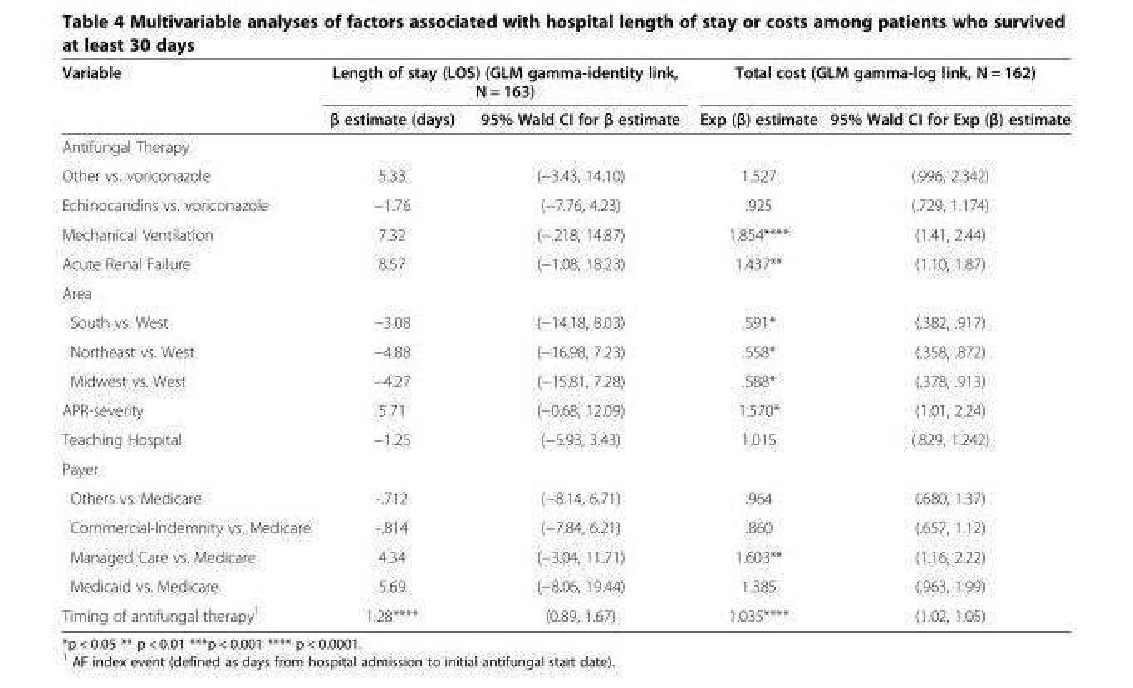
<table><thead><tr><td rowspan="2">Variable</td><td colspan="2">Length of stay (LOS) (GLM gamma-identity link, N = 163)</td><td colspan="2">Total cost (GLM gamma-log link, N = 162)</td></tr><tr><td>β estimate (days)</td><td>95% Wald CI for β estimate</td><td>Exp (β) estimate</td><td>95% Wald CI for Exp (β) estimate</td></tr></thead><tbody><tr><td colspan="5">Antifungal Therapy</td></tr><tr><td>Other vs. voriconazole</td><td>5.33</td><td>(−3.43, 14.10)</td><td>1.527</td><td>(.996, 2.342)</td></tr><tr><td>Echinocandins vs. voriconazole</td><td>−1.76</td><td>(−7.76, 4.23)</td><td>.925</td><td>(.729, 1.174)</td></tr><tr><td>Mechanical Ventilation</td><td>7.32</td><td>(−.218, 14.87)</td><td>1.854****</td><td>(1.41, 2.44)</td></tr><tr><td>Acute Renal Failure</td><td>8.57</td><td>(−1.08, 18.23)</td><td>1.437**</td><td>(1.10, 1.87)</td></tr><tr><td colspan="5">Area</td></tr><tr><td>South vs. West</td><td>−3.08</td><td>(−14.18, 8.03)</td><td>.591*</td><td>(.382, .917)</td></tr><tr><td>Northeast vs. West</td><td>−4.88</td><td>(−16.98, 7.23)</td><td>.558*</td><td>(.358, .872)</td></tr><tr><td>Midwest vs. West</td><td>−4.27</td><td>(−15.81, 7.28)</td><td>.588*</td><td>(.378, .913)</td></tr><tr><td>APR-severity</td><td>5.71</td><td>(−0.68, 12.09)</td><td>1.570*</td><td>(1.01, 2.24)</td></tr><tr><td>Teaching Hospital</td><td>−1.25</td><td>(−5.93, 3.43)</td><td>1.015</td><td>(.829, 1.242)</td></tr><tr><td colspan="5">Payer</td></tr><tr><td>Others vs. Medicare</td><td>-.712</td><td>(−8.14, 6.71)</td><td>.964</td><td>(.680, 1.37)</td></tr><tr><td>Commercial-Indemnity vs. Medicare</td><td>-.814</td><td>(−7.84, 6.21)</td><td>.860</td><td>(.657, 1.12)</td></tr><tr><td>Managed Care vs. Medicare</td><td>4.34</td><td>(−3.04, 11.71)</td><td>1.603**</td><td>(1.16, 2.22)</td></tr><tr><td>Medicaid vs. Medicare</td><td>5.69</td><td>(−8.06, 19.44)</td><td>1.385</td><td>(.963, 1.99)</td></tr><tr><td>Timing of antifungal therapy<sup>1</sup></td><td>1.28****</td><td>(0.89, 1.67)</td><td>1.035****</td><td>(1.02, 1.05)</td></tr></tbody></table>